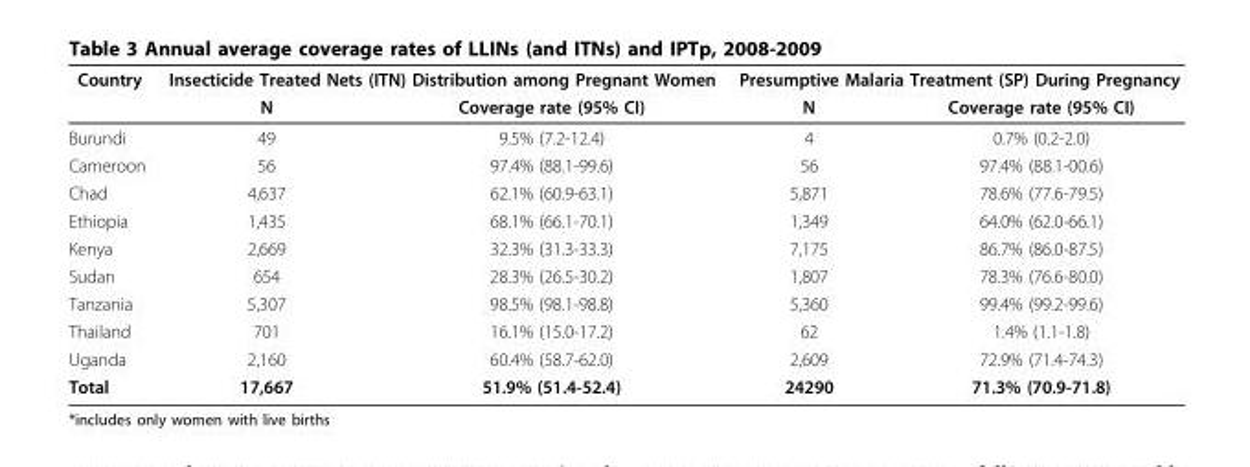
<table><thead><tr><td rowspan="2">Country</td><td colspan="2">Insecticide Treated Nets (ITN) Distribution among Pregnant Women</td><td colspan="2">Presumptive Malaria Treatment (SP) During Pregnancy</td></tr><tr><td>N</td><td>Coverage rate (95% CI)</td><td>N</td><td>Coverage rate (95% CI)</td></tr></thead><tbody><tr><td>Burundi</td><td>49</td><td>9.5% (7.2-12.4)</td><td>4</td><td>0.7% (0.2-2.0)</td></tr><tr><td>Cameroon</td><td>56</td><td>97.4% (88.1-99.6)</td><td>56</td><td>97.4% (88.1-00.6)</td></tr><tr><td>Chad</td><td>4,637</td><td>62.1% (60.9-63.1)</td><td>5,871</td><td>78.6% (77.6-79.5)</td></tr><tr><td>Ethiopia</td><td>1,435</td><td>68.1% (66.1-70.1)</td><td>1,349</td><td>64.0% (62.0-66.1)</td></tr><tr><td>Kenya</td><td>2,669</td><td>32.3% (31.3-33.3)</td><td>7,175</td><td>86.7% (86.0-87.5)</td></tr><tr><td>Sudan</td><td>654</td><td>28.3% (26.5-30.2)</td><td>1,807</td><td>78.3% (76.6-80.0)</td></tr><tr><td>Tanzania</td><td>5,307</td><td>98.5% (98.1-98.8)</td><td>5,360</td><td>99.4% (99.2-99.6)</td></tr><tr><td>Thailand</td><td>701</td><td>16.1% (15.0-17.2)</td><td>62</td><td>1.4% (1.1-1.8)</td></tr><tr><td>Uganda</td><td>2,160</td><td>60.4% (58.7-62.0)</td><td>2,609</td><td>72.9% (71.4-74.3)</td></tr><tr><td>Total</td><td>17,667</td><td>51.9% (51.4-52.4)</td><td>24290</td><td>71.3% (70.9-71.8)</td></tr></tbody></table>